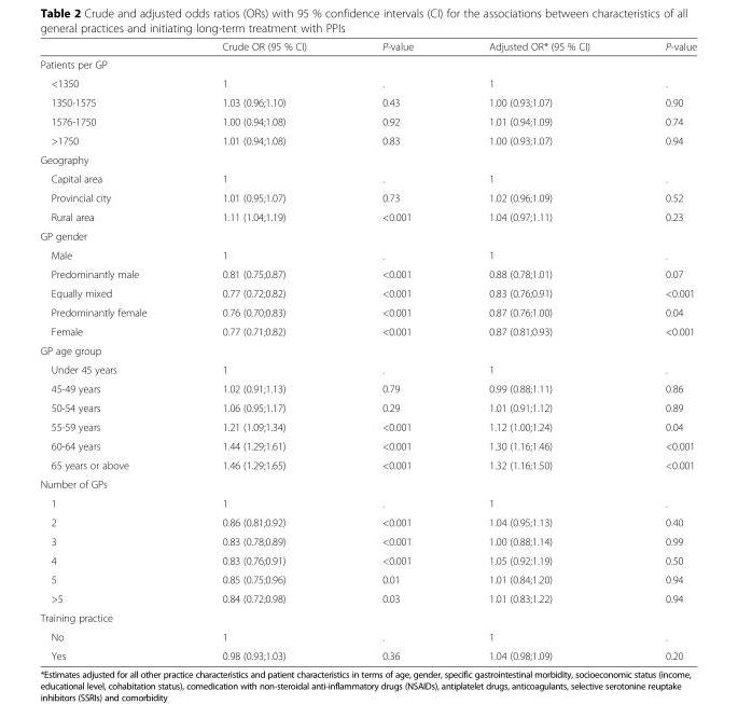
<table><thead><tr><td></td><td>Crude OR (95 % CI)</td><td>P-value</td><td>Adjusted OR* (95 % CI)</td><td>P-value</td></tr></thead><tbody><tr><td colspan="5">Patients per GP</td></tr><tr><td>&lt;1350</td><td>1</td><td>.</td><td>1</td><td>.</td></tr><tr><td>1350-1575</td><td>1.03 (0.96;1.10)</td><td>0.43</td><td>1.00 (0.93;1.07)</td><td>0.90</td></tr><tr><td>1576-1750</td><td>1.00 (0.94;1.08)</td><td>0.92</td><td>1.01 (0.94;1.09)</td><td>0.74</td></tr><tr><td>&gt;1750</td><td>1.01 (0.94;1.08)</td><td>0.83</td><td>1.00 (0.93;1.07)</td><td>0.94</td></tr><tr><td colspan="5">Geography</td></tr><tr><td>Capital area</td><td>1</td><td>.</td><td>1</td><td>.</td></tr><tr><td>Provincial city</td><td>1.01 (0.95;1.07)</td><td>0.73</td><td>1.02 (0.96;1.09)</td><td>0.52</td></tr><tr><td>Rural area</td><td>1.11 (1.04;1.19)</td><td>&lt;0.001</td><td>1.04 (0.97;1.11)</td><td>0.23</td></tr><tr><td colspan="5">GP gender</td></tr><tr><td>Male</td><td>1</td><td>.</td><td>1</td><td>.</td></tr><tr><td>Predominantly male</td><td>0.81 (0.75;0.87)</td><td>&lt;0.001</td><td>0.88 (0.78;1.01)</td><td>0.07</td></tr><tr><td>Equally mixed</td><td>0.77 (0.72;0.82)</td><td>&lt;0.001</td><td>0.83 (0.76;0.91)</td><td>&lt;0.001</td></tr><tr><td>Predominantly female</td><td>0.76 (0.70;0.83)</td><td>&lt;0.001</td><td>0.87 (0.76;1.00)</td><td>0.04</td></tr><tr><td>Female</td><td>0.77 (0.71;0.82)</td><td>&lt;0.001</td><td>0.87 (0.81;0.93)</td><td>&lt;0.001</td></tr><tr><td colspan="5">GP age group</td></tr><tr><td>Under 45 years</td><td>1</td><td>.</td><td>1</td><td>.</td></tr><tr><td>45-49 years</td><td>1.02 (0.91;1.13)</td><td>0.79</td><td>0.99 (0.88;1.11)</td><td>0.86</td></tr><tr><td>50-54 years</td><td>1.06 (0.95;1.17)</td><td>0.29</td><td>1.01 (0.91;1.12)</td><td>0.89</td></tr><tr><td>55-59 years</td><td>1.21 (1.09;1.34)</td><td>&lt;0.001</td><td>1.12 (1.00;1.24)</td><td>0.04</td></tr><tr><td>60-64 years</td><td>1.44 (1.29;1.61)</td><td>&lt;0.001</td><td>1.30 (1.16;1.46)</td><td>&lt;0.001</td></tr><tr><td>65 years or above</td><td>1.46 (1.29;1.65)</td><td>&lt;0.001</td><td>1.32 (1.16;1.50)</td><td>&lt;0.001</td></tr><tr><td colspan="5">Number of GPs</td></tr><tr><td>1</td><td>1</td><td>.</td><td>1</td><td>.</td></tr><tr><td>2</td><td>0.86 (0.81;0.92)</td><td>&lt;0.001</td><td>1.04 (0.95;1.13)</td><td>0.40</td></tr><tr><td>3</td><td>0.83 (0.78;0.89)</td><td>&lt;0.001</td><td>1.00 (0.88;1.14)</td><td>0.99</td></tr><tr><td>4</td><td>0.83 (0.76;0.91)</td><td>&lt;0.001</td><td>1.05 (0.92;1.19)</td><td>0.50</td></tr><tr><td>5</td><td>0.85 (0.75;0.96)</td><td>0.01</td><td>1.01 (0.84;1.20)</td><td>0.94</td></tr><tr><td>&gt;5</td><td>0.84 (0.72;0.98)</td><td>0.03</td><td>1.01 (0.83;1.22)</td><td>0.94</td></tr><tr><td colspan="5">Training practice</td></tr><tr><td>No</td><td>1</td><td>.</td><td>1</td><td>.</td></tr><tr><td>Yes</td><td>0.98 (0.93;1.03)</td><td>0.36</td><td>1.04 (0.98;1.09)</td><td>0.20</td></tr></tbody></table>